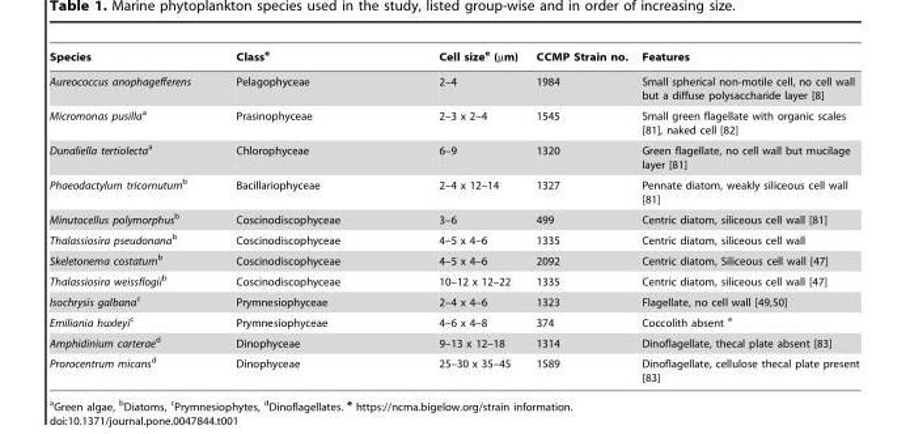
<table><thead><tr><td>Species</td><td>Class<sup>e</sup></td><td>Cell size<sup>e</sup> (µm)</td><td>CCMP Strain no.</td><td>Features</td></tr></thead><tbody><tr><td>Aureococcus anophagefferens</td><td>Pelagophyceae</td><td>2–4</td><td>1984</td><td>Small spherical non-motile cell, no cell wall but a diffuse polysaccharide layer [8]</td></tr><tr><td>Micromonas pusillaa</td><td>Prasinophyceae</td><td>2–3 x 2–4</td><td>1545</td><td>Small green flagellate with organic scales [81], naked cell [82]</td></tr><tr><td>Dunaliella tertiolectaa</td><td>Chlorophyceae</td><td>6–9</td><td>1320</td><td>Green flagellate, no cell wall but mucilage layer [81]</td></tr><tr><td>Phaeodactylum tricornutum<sup>b</sup></td><td>Bacillariophyceae</td><td>2–4 x 12–14</td><td>1327</td><td>Pennate diatom, weakly siliceous cell wall [81]</td></tr><tr><td>Minutocellus polymorphus<sup>b</sup></td><td>Coscinodiscophyceae</td><td>3–6</td><td>499</td><td>Centric diatom, siliceous cell wall [81]</td></tr><tr><td>Thalassiosira pseudonana<sup>b</sup></td><td>Coscinodiscophyceae</td><td>4–5 x 4–6</td><td>1335</td><td>Centric diatom, siliceous cell wall</td></tr><tr><td>Skeletonema costatum<sup>b</sup></td><td>Coscinodiscophyceae</td><td>4–5 x 4–6</td><td>2092</td><td>Centric diatom, Siliceous cell wall [47]</td></tr><tr><td>Thalassiosira weissflogii<sup>b</sup></td><td>Coscinodiscophyceae</td><td>10–12 x 12–22</td><td>1335</td><td>Centric diatom, siliceous cell wall [47]</td></tr><tr><td>Isochrysis galbana<sup>c</sup></td><td>Prymnesiophyceae</td><td>2–4 x 4–6</td><td>1323</td><td>Flagellate, no cell wall [49,50]</td></tr><tr><td>Emiliania huxleyi<sup>c</sup></td><td>Prymnesiophyceae</td><td>4–6 x 4–8</td><td>374</td><td>Coccolith absent <sup>e</sup></td></tr><tr><td>Amphidinium carterae<sup>d</sup></td><td>Dinophyceae</td><td>9–13 x 12–18</td><td>1314</td><td>Dinoflagellate, thecal plate absent [83]</td></tr><tr><td>Prorocentrum micans<sup>d</sup></td><td>Dinophyceae</td><td>25–30 x 35–45</td><td>1589</td><td>Dinoflagellate, cellulose thecal plate present [83]</td></tr></tbody></table>